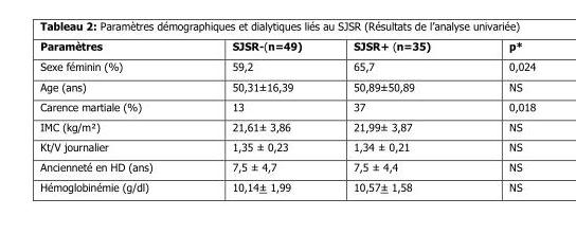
<table><thead><tr><td>Paramètres</td><td>SJSR-(n=49)</td><td>SJSR+ (n=35)</td><td>p*</td></tr></thead><tbody><tr><td>Sexe féminin (%)</td><td>59,2</td><td>65,7</td><td>0,024</td></tr><tr><td>Age (ans)</td><td>50,31±16,39</td><td>50,89±50,89</td><td>NS</td></tr><tr><td>Carence martiale (%)</td><td>13</td><td>37</td><td>0,018</td></tr><tr><td>IMC (kg/m²)</td><td>21,61± 3,86</td><td>21,99± 3,87</td><td>NS</td></tr><tr><td>Kt/V journalier</td><td>1,35 ± 0,23</td><td>1,34 ± 0,21</td><td>NS</td></tr><tr><td>Ancienneté en HD (ans)</td><td>7,5 ± 4,7</td><td>7,5 ± 4,4</td><td>NS</td></tr><tr><td>Hémoglobinémie (g/dl)</td><td>10,14± 1,99</td><td>10,57± 1,58</td><td>NS</td></tr></tbody></table>